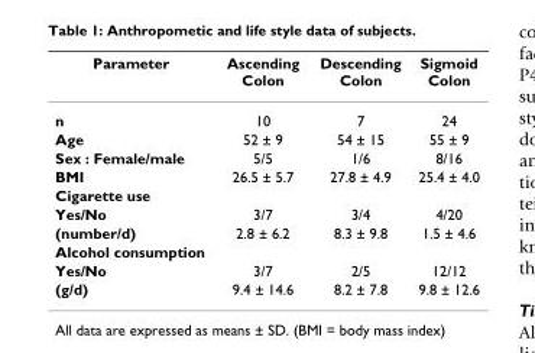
<table><thead><tr><td>Parameter</td><td>Ascending Colon</td><td>Descending Colon</td><td>Sigmoid Colon</td></tr></thead><tbody><tr><td>n</td><td>10</td><td>7</td><td>24</td></tr><tr><td>Age</td><td>52 ± 9</td><td>54 ± 15</td><td>55 ± 9</td></tr><tr><td>Sex : Female/male</td><td>5/5</td><td>1/6</td><td>8/16</td></tr><tr><td>BMI</td><td>26.5 ± 5.7</td><td>27.8 ± 4.9</td><td>25.4 ± 4.0</td></tr><tr><td colspan="4">Cigarette use</td></tr><tr><td>Yes/No</td><td>3/7</td><td>3/4</td><td>4/20</td></tr><tr><td>(number/d)</td><td>2.8 ± 6.2</td><td>8.3 ± 9.8</td><td>1.5 ± 4.6</td></tr><tr><td colspan="4">Alcohol consumption</td></tr><tr><td>Yes/No</td><td>3/7</td><td>2/5</td><td>12/12</td></tr><tr><td>(g/d)</td><td>9.4 ± 14.6</td><td>8.2 ± 7.8</td><td>9.8 ± 12.6</td></tr></tbody></table>